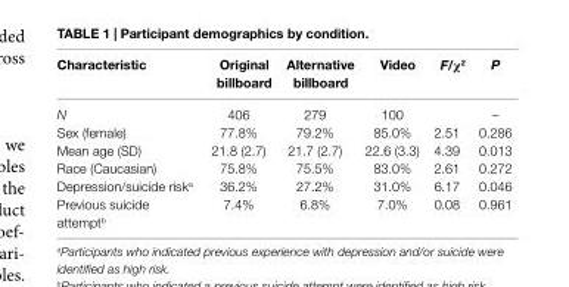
<table><thead><tr><td>characteristic</td><td>Original billboard</td><td>alternative billboard</td><td>Video</td><td>F/χ<sup>2</sup></td><td>P</td></tr></thead><tbody><tr><td>N</td><td>406</td><td>279</td><td>100</td><td></td><td>–</td></tr><tr><td>Sex (female)</td><td>77.8%</td><td>79.2%</td><td>85.0%</td><td>2.51</td><td>0.286</td></tr><tr><td>Mean age (SD)</td><td>21.8 (2.7)</td><td>21.7 (2.7)</td><td>22.6 (3.3)</td><td>4.39</td><td>0.013</td></tr><tr><td>Race (Caucasian)</td><td>75.8%</td><td>75.5%</td><td>83.0%</td><td>2.61</td><td>0.272</td></tr><tr><td>Depression/suicide risk<sup>a</sup></td><td>36.2%</td><td>27.2%</td><td>31.0%</td><td>6.17</td><td>0.046</td></tr><tr><td>Previous suicide attempt<sup>b</sup></td><td>7.4%</td><td>6.8%</td><td>7.0%</td><td>0.08</td><td>0.961</td></tr></tbody></table>